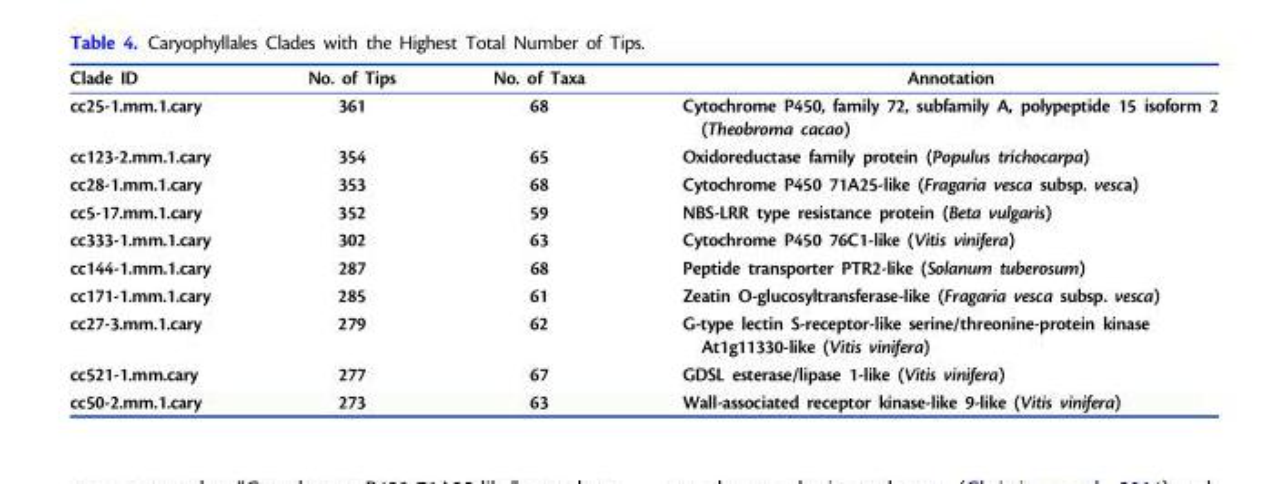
<table><thead><tr><td>Clade ID</td><td>No. of Tips</td><td>No. of Taxa</td><td>Annotation</td></tr></thead><tbody><tr><td>cc25-1.mm.1.cary</td><td>361</td><td>68</td><td>Cytochrome P450, family 72, subfamily A, polypeptide 15 isoform 2 (Theobroma cacao)</td></tr><tr><td>cc123-2.mm.1.cary</td><td>354</td><td>65</td><td>Oxidoreductase family protein (Populus trichocarpa)</td></tr><tr><td>cc28-1.mm.1.cary</td><td>353</td><td>68</td><td>Cytochrome P450 71A25-like (Fragaria vesca subsp. vesca)</td></tr><tr><td>cc5-17.mm.1.cary</td><td>352</td><td>59</td><td>NBS-LRR type resistance protein (Beta vulgaris)</td></tr><tr><td>cc333-1.mm.1.cary</td><td>302</td><td>63</td><td>Cytochrome P450 76C1-like (Vitis vinifera)</td></tr><tr><td>cc144-1.mm.1.cary</td><td>287</td><td>68</td><td>Peptide transporter PTR2-like (Solanum tuberosum)</td></tr><tr><td>cc171-1.mm.1.cary</td><td>285</td><td>61</td><td>Zeatin O-glucosyltransferase-like (Fragaria vesca subsp. vesca)</td></tr><tr><td>cc27-3.mm.1.cary</td><td>279</td><td>62</td><td>G-type lectin S-receptor-like serine/threonine-protein kinase At1g11330-like (Vitis vinifera)</td></tr><tr><td>cc521-1.mm.cary</td><td>277</td><td>67</td><td>GDSL esterase/lipase 1-like (Vitis vinifera)</td></tr><tr><td>cc50-2.mm.1.cary</td><td>273</td><td>63</td><td>Wall-associated receptor kinase-like 9-like (Vitis vinifera)</td></tr></tbody></table>